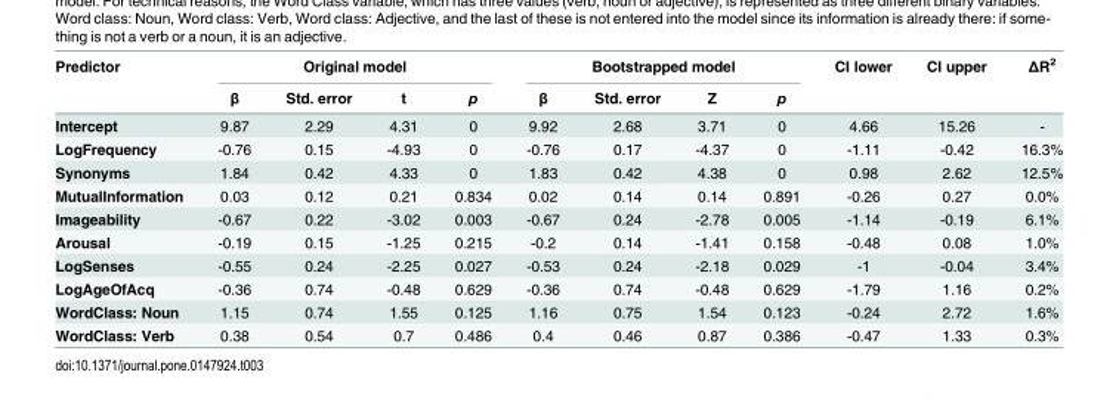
<table><thead><tr><td rowspan="2">Predictor</td><td colspan="4">Original model</td><td colspan="4">Bootstrapped model</td><td rowspan="2">CI lower</td><td rowspan="2">CI upper</td><td rowspan="2">ΔR<sup>2</sup></td></tr><tr><td>β</td><td>Std. error</td><td>t</td><td>p</td><td>β</td><td>Std. error</td><td>Z</td><td>p</td></tr></thead><tbody><tr><td>Intercept</td><td>9.87</td><td>2.29</td><td>4.31</td><td>0</td><td>9.92</td><td>2.68</td><td>3.71</td><td>0</td><td>4.66</td><td>15.26</td><td>-</td></tr><tr><td>LogFrequency</td><td>-0.76</td><td>0.15</td><td>-4.93</td><td>0</td><td>-0.76</td><td>0.17</td><td>-4.37</td><td>0</td><td>-1.11</td><td>-0.42</td><td>16.3%</td></tr><tr><td>Synonyms</td><td>1.84</td><td>0.42</td><td>4.33</td><td>0</td><td>1.83</td><td>0.42</td><td>4.38</td><td>0</td><td>0.98</td><td>2.62</td><td>12.5%</td></tr><tr><td>MutualInformation</td><td>0.03</td><td>0.12</td><td>0.21</td><td>0.834</td><td>0.02</td><td>0.14</td><td>0.14</td><td>0.891</td><td>-0.26</td><td>0.27</td><td>0.0%</td></tr><tr><td>Imageability</td><td>-0.67</td><td>0.22</td><td>-3.02</td><td>0.003</td><td>-0.67</td><td>0.24</td><td>-2.78</td><td>0.005</td><td>-1.14</td><td>-0.19</td><td>6.1%</td></tr><tr><td>Arousal</td><td>-0.19</td><td>0.15</td><td>-1.25</td><td>0.215</td><td>-0.2</td><td>0.14</td><td>-1.41</td><td>0.158</td><td>-0.48</td><td>0.08</td><td>1.0%</td></tr><tr><td>LogSenses</td><td>-0.55</td><td>0.24</td><td>-2.25</td><td>0.027</td><td>-0.53</td><td>0.24</td><td>-2.18</td><td>0.029</td><td>-1</td><td>-0.04</td><td>3.4%</td></tr><tr><td>LogAgeOfAcq</td><td>-0.36</td><td>0.74</td><td>-0.48</td><td>0.629</td><td>-0.36</td><td>0.74</td><td>-0.48</td><td>0.629</td><td>-1.79</td><td>1.16</td><td>0.2%</td></tr><tr><td>WordClass: Noun</td><td>1.15</td><td>0.74</td><td>1.55</td><td>0.125</td><td>1.16</td><td>0.75</td><td>1.54</td><td>0.123</td><td>-0.24</td><td>2.72</td><td>1.6%</td></tr><tr><td>WordClass: Verb</td><td>0.38</td><td>0.54</td><td>0.7</td><td>0.486</td><td>0.4</td><td>0.46</td><td>0.87</td><td>0.386</td><td>-0.47</td><td>1.33</td><td>0.3%</td></tr></tbody></table>